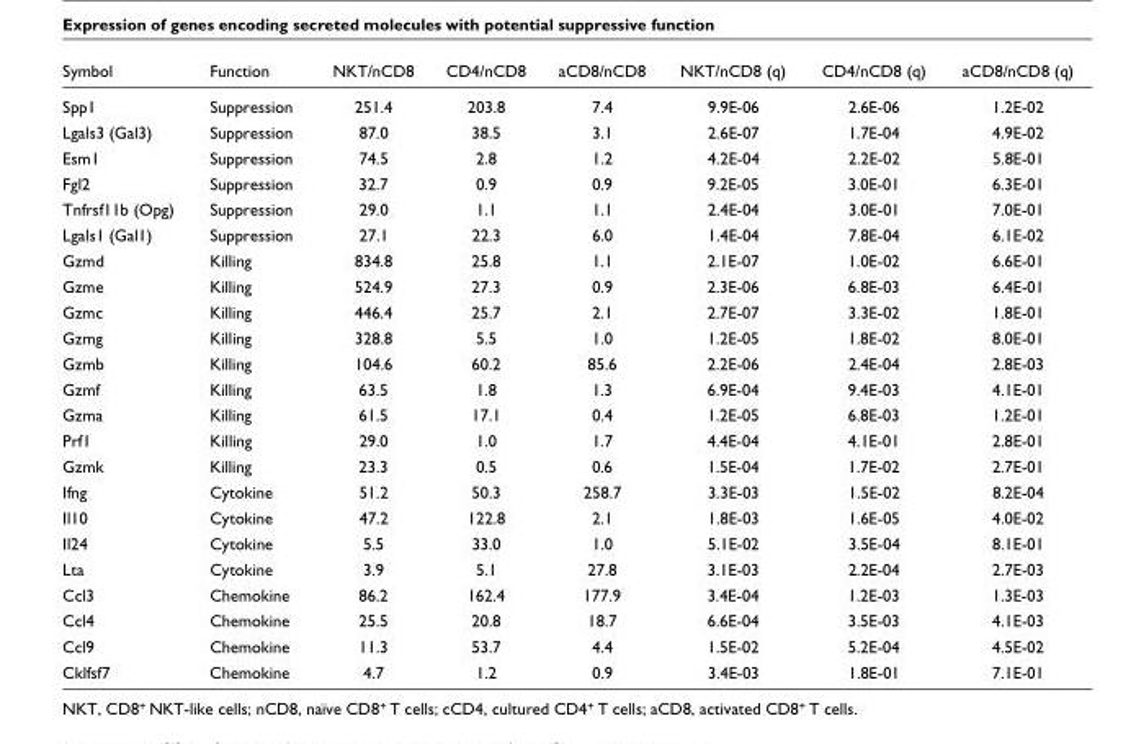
<table><thead><tr><td>Symbol</td><td>Function</td><td>NKT/nCD8</td><td>CD4/nCD8</td><td>aCD8/nCD8</td><td>NKT/nCD8 (q)</td><td>CD4/nCD8 (q)</td><td>aCD8/nCD8 (q)</td></tr></thead><tbody><tr><td>Spp1</td><td>Suppression</td><td>251.4</td><td>203.8</td><td>7.4</td><td>9.9E-06</td><td>2.6E-06</td><td>1.2E-02</td></tr><tr><td>Lgals3 (Gal3)</td><td>Suppression</td><td>87.0</td><td>38.5</td><td>3.1</td><td>2.6E-07</td><td>1.7E-04</td><td>4.9E-02</td></tr><tr><td>Esm1</td><td>Suppression</td><td>74.5</td><td>2.8</td><td>1.2</td><td>4.2E-04</td><td>2.2E-02</td><td>5.8E-01</td></tr><tr><td>Fgl2</td><td>Suppression</td><td>32.7</td><td>0.9</td><td>0.9</td><td>9.2E-05</td><td>3.0E-01</td><td>6.3E-01</td></tr><tr><td>Tnfrsf11b (Opg)</td><td>Suppression</td><td>29.0</td><td>1.1</td><td>1.1</td><td>2.4E-04</td><td>3.0E-01</td><td>7.0E-01</td></tr><tr><td>Lgals1 (Gal1)</td><td>Suppression</td><td>27.1</td><td>22.3</td><td>6.0</td><td>1.4E-04</td><td>7.8E-04</td><td>6.1E-02</td></tr><tr><td>Gzmd</td><td>Killing</td><td>834.8</td><td>25.8</td><td>1.1</td><td>2.1E-07</td><td>1.0E-02</td><td>6.6E-01</td></tr><tr><td>Gzme</td><td>Killing</td><td>524.9</td><td>27.3</td><td>0.9</td><td>2.3E-06</td><td>6.8E-03</td><td>6.4E-01</td></tr><tr><td>Gzmc</td><td>Killing</td><td>446.4</td><td>25.7</td><td>2.1</td><td>2.7E-07</td><td>3.3E-02</td><td>1.8E-01</td></tr><tr><td>Gzmg</td><td>Killing</td><td>328.8</td><td>5.5</td><td>1.0</td><td>1.2E-05</td><td>1.8E-02</td><td>8.0E-01</td></tr><tr><td>Gzmb</td><td>Killing</td><td>104.6</td><td>60.2</td><td>85.6</td><td>2.2E-06</td><td>2.4E-04</td><td>2.8E-03</td></tr><tr><td>Gzmf</td><td>Killing</td><td>63.5</td><td>1.8</td><td>1.3</td><td>6.9E-04</td><td>9.4E-03</td><td>4.1E-01</td></tr><tr><td>Gzma</td><td>Killing</td><td>61.5</td><td>17.1</td><td>0.4</td><td>1.2E-05</td><td>6.8E-03</td><td>1.2E-01</td></tr><tr><td>Prf1</td><td>Killing</td><td>29.0</td><td>1.0</td><td>1.7</td><td>4.4E-04</td><td>4.1E-01</td><td>2.8E-01</td></tr><tr><td>Gzmk</td><td>Killing</td><td>23.3</td><td>0.5</td><td>0.6</td><td>1.5E-04</td><td>1.7E-02</td><td>2.7E-01</td></tr><tr><td>Ifng</td><td>Cytokine</td><td>51.2</td><td>50.3</td><td>258.7</td><td>3.3E-03</td><td>1.5E-02</td><td>8.2E-04</td></tr><tr><td>Il10</td><td>Cytokine</td><td>47.2</td><td>122.8</td><td>2.1</td><td>1.8E-03</td><td>1.6E-05</td><td>4.0E-02</td></tr><tr><td>Il24</td><td>Cytokine</td><td>5.5</td><td>33.0</td><td>1.0</td><td>5.1E-02</td><td>3.5E-04</td><td>8.1E-01</td></tr><tr><td>Lta</td><td>Cytokine</td><td>3.9</td><td>5.1</td><td>27.8</td><td>3.1E-03</td><td>2.2E-04</td><td>2.7E-03</td></tr><tr><td>Ccl3</td><td>Chemokine</td><td>86.2</td><td>162.4</td><td>177.9</td><td>3.4E-04</td><td>1.2E-03</td><td>1.3E-03</td></tr><tr><td>Ccl4</td><td>Chemokine</td><td>25.5</td><td>20.8</td><td>18.7</td><td>6.6E-04</td><td>3.5E-03</td><td>4.1E-03</td></tr><tr><td>Ccl9</td><td>Chemokine</td><td>11.3</td><td>53.7</td><td>4.4</td><td>1.5E-02</td><td>5.2E-04</td><td>4.5E-02</td></tr><tr><td>Cklfsf7</td><td>Chemokine</td><td>4.7</td><td>1.2</td><td>0.9</td><td>3.4E-03</td><td>1.8E-01</td><td>7.1E-01</td></tr></tbody></table>